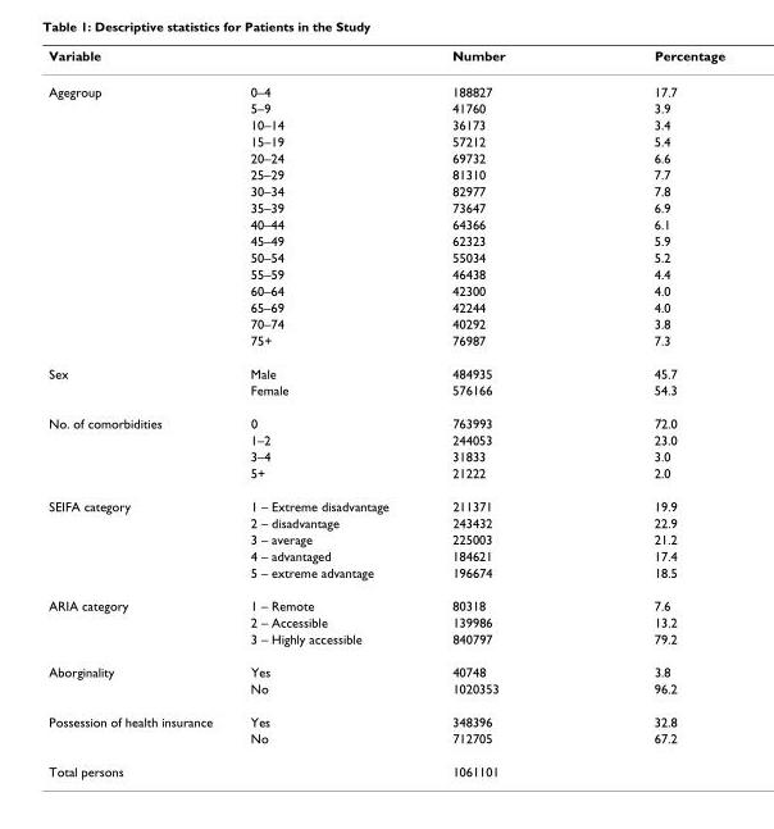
<table><thead><tr><td>Variable</td><td></td><td>Number</td><td>Percentage</td></tr></thead><tbody><tr><td rowspan="16">Agegroup</td><td>0–4</td><td>188827</td><td>17.7</td></tr><tr><td>5–9</td><td>41760</td><td>3.9</td></tr><tr><td>10–14</td><td>36173</td><td>3.4</td></tr><tr><td>15–19</td><td>57212</td><td>5.4</td></tr><tr><td>20–24</td><td>69732</td><td>6.6</td></tr><tr><td>25–29</td><td>81310</td><td>7.7</td></tr><tr><td>30–34</td><td>82977</td><td>7.8</td></tr><tr><td>35–39</td><td>73647</td><td>6.9</td></tr><tr><td>40–44</td><td>64366</td><td>6.1</td></tr><tr><td>45–49</td><td>62323</td><td>5.9</td></tr><tr><td>50–54</td><td>55034</td><td>5.2</td></tr><tr><td>55–59</td><td>46438</td><td>4.4</td></tr><tr><td>60–64</td><td>42300</td><td>4.0</td></tr><tr><td>65–69</td><td>42244</td><td>4.0</td></tr><tr><td>70–74</td><td>40292</td><td>3.8</td></tr><tr><td>75+</td><td>76987</td><td>7.3</td></tr><tr><td rowspan="2">Sex</td><td>Male</td><td>484935</td><td>45.7</td></tr><tr><td>Female</td><td>576166</td><td>54.3</td></tr><tr><td rowspan="4">No. of comorbidities</td><td>0</td><td>763993</td><td>72.0</td></tr><tr><td>1–2</td><td>244053</td><td>23.0</td></tr><tr><td>3–4</td><td>31833</td><td>3.0</td></tr><tr><td>5+</td><td>21222</td><td>2.0</td></tr><tr><td rowspan="5">SEIFA category</td><td>1 – Extreme disadvantage</td><td>211371</td><td>19.9</td></tr><tr><td>2 – disadvantage</td><td>243432</td><td>22.9</td></tr><tr><td>3 – average</td><td>225003</td><td>21.2</td></tr><tr><td>4 – advantaged</td><td>184621</td><td>17.4</td></tr><tr><td>5 – extreme advantage</td><td>196674</td><td>18.5</td></tr><tr><td rowspan="3">ARIA category</td><td>1 – Remote</td><td>80318</td><td>7.6</td></tr><tr><td>2 – Accessible</td><td>139986</td><td>13.2</td></tr><tr><td>3 – Highly accessible</td><td>840797</td><td>79.2</td></tr><tr><td rowspan="2">Aborginality</td><td>Yes</td><td>40748</td><td>3.8</td></tr><tr><td>No</td><td>1020353</td><td>96.2</td></tr><tr><td rowspan="2">Possession of health insurance</td><td>Yes</td><td>348396</td><td>32.8</td></tr><tr><td>No</td><td>712705</td><td>67.2</td></tr><tr><td>Total persons</td><td></td><td>1061101</td><td></td></tr></tbody></table>